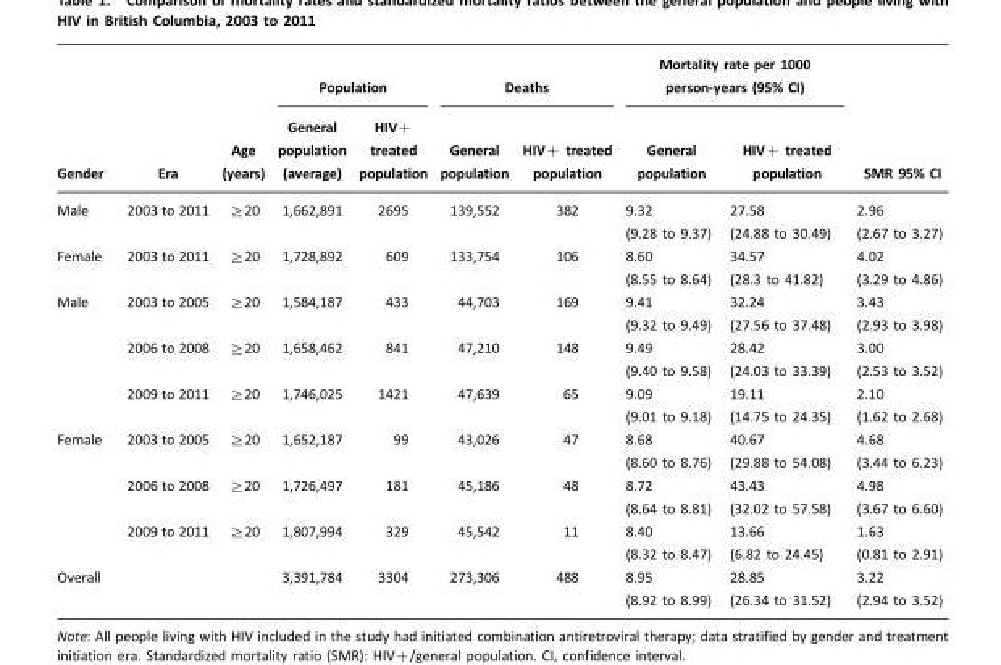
<table><thead><tr><td rowspan="2">Gender</td><td rowspan="2">Era</td><td rowspan="2">Age (years)</td><td colspan="2">Population</td><td colspan="2">Deaths</td><td colspan="2">Mortality rate per 1000 person-years (95% CI)</td><td rowspan="2">SMR 95% CI</td></tr><tr><td>General population (average)</td><td>HIV+ treated population</td><td>General population</td><td>HIV+ treated population</td><td>General population</td><td>HIV+ treated population</td></tr></thead><tbody><tr><td>Male</td><td>2003 to 2011</td><td>≥20</td><td>1,662,891</td><td>2695</td><td>139,552</td><td>382</td><td>9.32 (9.28 to 9.37)</td><td>27.58 (24.88 to 30.49)</td><td>2.96 (2.67 to 3.27)</td></tr><tr><td>Female</td><td>2003 to 2011</td><td>≥20</td><td>1,728,892</td><td>609</td><td>133,754</td><td>106</td><td>8.60 (8.55 to 8.64)</td><td>34.57 (28.3 to 41.82)</td><td>4.02 (3.29 to 4.86)</td></tr><tr><td rowspan="3">Male</td><td>2003 to 2005</td><td>≥20</td><td>1,584,187</td><td>433</td><td>44,703</td><td>169</td><td>9.41 (9.32 to 9.49)</td><td>32.24 (27.56 to 37.48)</td><td>3.43 (2.93 to 3.98)</td></tr><tr><td>2006 to 2008</td><td>≥20</td><td>1,658,462</td><td>841</td><td>47,210</td><td>148</td><td>9.49 (9.40 to 9.58)</td><td>28.42 (24.03 to 33.39)</td><td>3.00 (2.53 to 3.52)</td></tr><tr><td>2009 to 2011</td><td>≥20</td><td>1,746,025</td><td>1421</td><td>47,639</td><td>65</td><td>9.09 (9.01 to 9.18)</td><td>19.11 (14.75 to 24.35)</td><td>2.10 (1.62 to 2.68)</td></tr><tr><td rowspan="3">Female</td><td>2003 to 2005</td><td>≥20</td><td>1,652,187</td><td>99</td><td>43,026</td><td>47</td><td>8.68 (8.60 to 8.76)</td><td>40.67 (29.88 to 54.08)</td><td>4.68 (3.44 to 6.23)</td></tr><tr><td>2006 to 2008</td><td>≥20</td><td>1,726,497</td><td>181</td><td>45,186</td><td>48</td><td>8.72 (8.64 to 8.81)</td><td>43.43 (32.02 to 57.58)</td><td>4.98 (3.67 to 6.60)</td></tr><tr><td>2009 to 2011</td><td>≥20</td><td>1,807,994</td><td>329</td><td>45,542</td><td>11</td><td>8.40 (8.32 to 8.47)</td><td>13.66 (6.82 to 24.45)</td><td>1.63 (0.81 to 2.91)</td></tr><tr><td colspan="3">Overall</td><td>3,391,784</td><td>3304</td><td>273,306</td><td>488</td><td>8.95 (8.92 to 8.99)</td><td>28.85 (26.34 to 31.52)</td><td>3.22 (2.94 to 3.52)</td></tr></tbody></table>